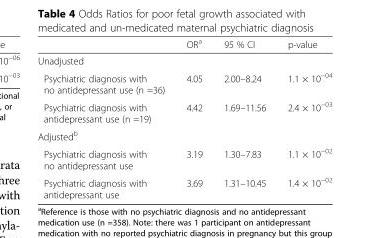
<table><thead><tr><td></td><td>OR<sup>a</sup></td><td>95 % CI</td><td>p-value</td></tr></thead><tbody><tr><td colspan="4">Unadjusted</td></tr><tr><td>Psychiatric diagnosis with no antidepressant use (n =36)</td><td>4.05</td><td>2.00–8.24</td><td>1.1 × 10<sup>−04</sup></td></tr><tr><td>Psychiatric diagnosis with antidepressant use (n =19)</td><td>4.42</td><td>1.69–11.56</td><td>2.4 × 10<sup>−03</sup></td></tr><tr><td colspan="4">Adjusted<sup>b</sup></td></tr><tr><td>Psychiatric diagnosis with no antidepressant use</td><td>3.19</td><td>1.30–7.83</td><td>1.1 × 10<sup>−02</sup></td></tr><tr><td>Psychiatric diagnosis with antidepressant use</td><td>3.69</td><td>1.31–10.45</td><td>1.4 × 10<sup>−02</sup></td></tr></tbody></table>